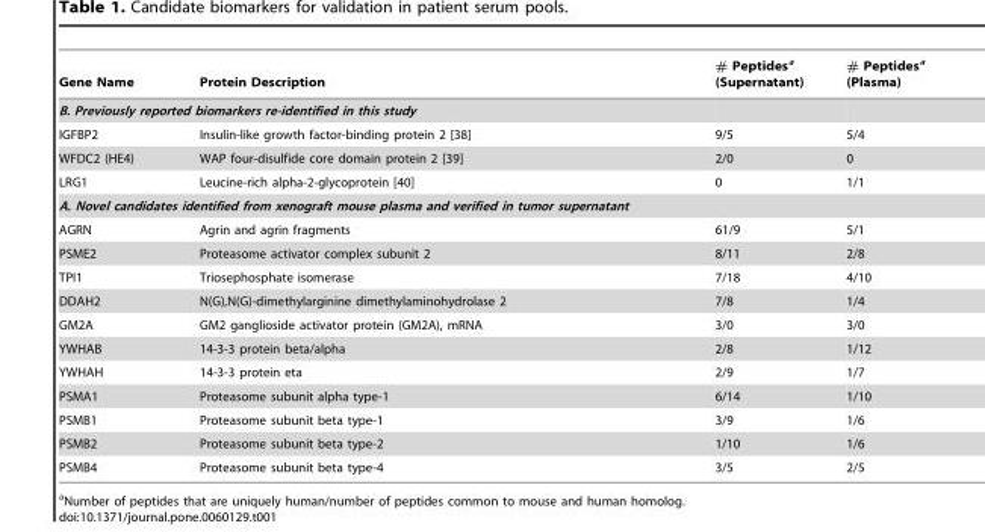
<table><thead><tr><td>Gene Name</td><td>Protein Description</td><td># Peptides<sup>a</sup> (Supernatant)</td><td># Peptides<sup>a</sup> (Plasma)</td></tr></thead><tbody><tr><td colspan="4">B. Previously reported biomarkers re-identified in this study</td></tr><tr><td>IGFBP2</td><td>Insulin-like growth factor-binding protein 2 [38]</td><td>9/5</td><td>5/4</td></tr><tr><td>WFDC2 (HE4)</td><td>WAP four-disulfide core domain protein 2 [39]</td><td>2/0</td><td>0</td></tr><tr><td>LRG1</td><td>Leucine-rich alpha-2-glycoprotein [40]</td><td>0</td><td>1/1</td></tr><tr><td colspan="4">A. Novel candidates identified from xenograft mouse plasma and verified in tumor supernatant</td></tr><tr><td>AGRN</td><td>Agrin and agrin fragments</td><td>61/9</td><td>5/1</td></tr><tr><td>PSME2</td><td>Proteasome activator complex subunit 2</td><td>8/11</td><td>2/8</td></tr><tr><td>TPI1</td><td>Triosephosphate isomerase</td><td>7/18</td><td>4/10</td></tr><tr><td>DDAH2</td><td>N(G),N(G)-dimethylarginine dimethylaminohydrolase 2</td><td>7/8</td><td>1/4</td></tr><tr><td>GM2A</td><td>GM2 ganglioside activator protein (GM2A), mRNA</td><td>3/0</td><td>3/0</td></tr><tr><td>YWHAB</td><td>14-3-3 protein beta/alpha</td><td>2/8</td><td>1/12</td></tr><tr><td>YWHAH</td><td>14-3-3 protein eta</td><td>2/9</td><td>1/7</td></tr><tr><td>PSMA1</td><td>Proteasome subunit alpha type-1</td><td>6/14</td><td>1/10</td></tr><tr><td>PSMB1</td><td>Proteasome subunit beta type-1</td><td>3/9</td><td>1/6</td></tr><tr><td>PSMB2</td><td>Proteasome subunit beta type-2</td><td>1/10</td><td>1/6</td></tr><tr><td>PSMB4</td><td>Proteasome subunit beta type-4</td><td>3/5</td><td>2/5</td></tr></tbody></table>